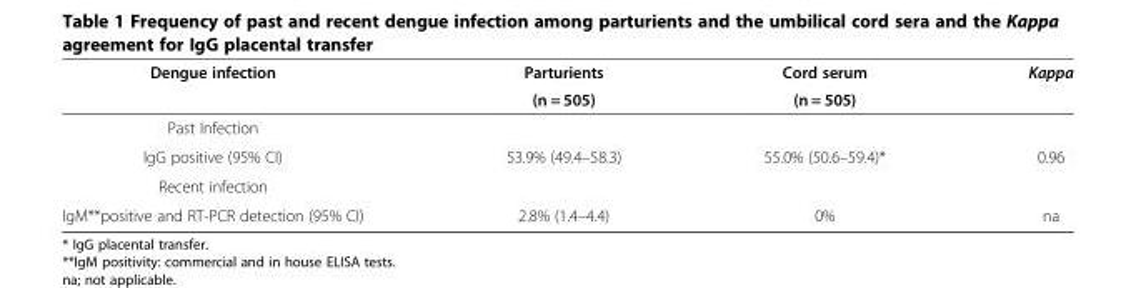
<table><thead><tr><td rowspan="2">Dengue infection</td><td rowspan="2">Parturients (n = 505)</td><td rowspan="2">Cord serum (n = 505)</td><td rowspan="2">Kappa</td></tr><tr></tr></thead><tbody><tr><td colspan="4">Past Infection</td></tr><tr><td>IgG positive (95% CI)</td><td>53.9% (49.4–58.3)</td><td>55.0% (50.6–59.4)*</td><td>0.96</td></tr><tr><td colspan="4">Recent infection</td></tr><tr><td>IgM**positive and RT-PCR detection (95% CI)</td><td>2.8% (1.4–4.4)</td><td>0%</td><td>na</td></tr></tbody></table>